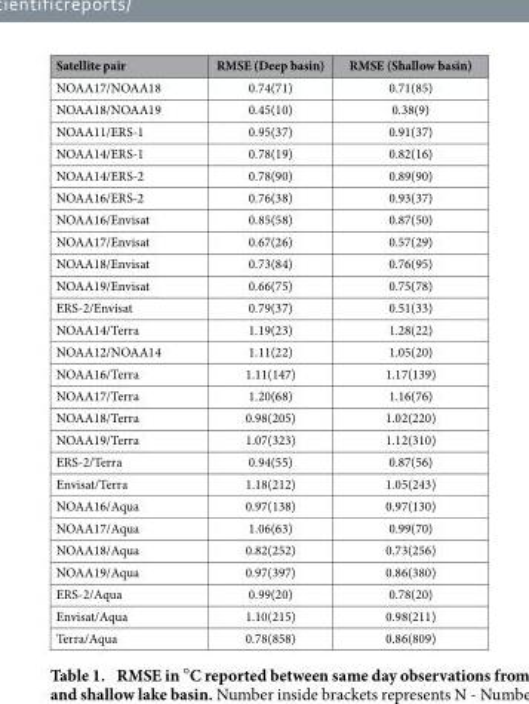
<table><thead><tr><td>Satellite pair</td><td>RMSE (Deep basin)</td><td>RMSE (Shallow basin)</td></tr></thead><tbody><tr><td>NOAA17/NOAA18</td><td>0.74(71)</td><td>0.71(85)</td></tr><tr><td>NOAA18/NOAA19</td><td>0.45(10)</td><td>0.38(9)</td></tr><tr><td>NOAA11/ERS-1</td><td>0.95(37)</td><td>0.91(37)</td></tr><tr><td>NOAA14/ERS-1</td><td>0.78(19)</td><td>0.82(16)</td></tr><tr><td>NOAA14/ERS-2</td><td>0.78(90)</td><td>0.89(90)</td></tr><tr><td>NOAA16/ERS-2</td><td>0.76(38)</td><td>0.93(37)</td></tr><tr><td>NOAA16/Envisat</td><td>0.85(58)</td><td>0.87(50)</td></tr><tr><td>NOAA17/Envisat</td><td>0.67(26)</td><td>0.57(29)</td></tr><tr><td>NOAA18/Envisat</td><td>0.73(84)</td><td>0.76(95)</td></tr><tr><td>NOAA19/Envisat</td><td>0.66(75)</td><td>0.75(78)</td></tr><tr><td>ERS-2/Envisat</td><td>0.79(37)</td><td>0.51(33)</td></tr><tr><td>NOAA14/Terra</td><td>1.19(23)</td><td>1.28(22)</td></tr><tr><td>NOAA12/NOAA14</td><td>1.11(22)</td><td>1.05(20)</td></tr><tr><td>NOAA16/Terra</td><td>1.11(147)</td><td>1.17(139)</td></tr><tr><td>NOAA17/Terra</td><td>1.20(68)</td><td>1.16(76)</td></tr><tr><td>NOAA18/Terra</td><td>0.98(205)</td><td>1.02(220)</td></tr><tr><td>NOAA19/Terra</td><td>1.07(323)</td><td>1.12(310)</td></tr><tr><td>ERS-2/Terra</td><td>0.94(55)</td><td>0.87(56)</td></tr><tr><td>Envisat/Terra</td><td>1.18(212)</td><td>1.05(243)</td></tr><tr><td>NOAA16/Aqua</td><td>0.97(138)</td><td>0.97(130)</td></tr><tr><td>NOAA17/Aqua</td><td>1.06(63)</td><td>0.99(70)</td></tr><tr><td>NOAA18/Aqua</td><td>0.82(252)</td><td>0.73(256)</td></tr><tr><td>NOAA19/Aqua</td><td>0.97(397)</td><td>0.86(380)</td></tr><tr><td>ERS-2/Aqua</td><td>0.99(20)</td><td>0.78(20)</td></tr><tr><td>Envisat/Aqua</td><td>1.10(215)</td><td>0.98(211)</td></tr><tr><td>Terra/Aqua</td><td>0.78(858)</td><td>0.86(809)</td></tr></tbody></table>